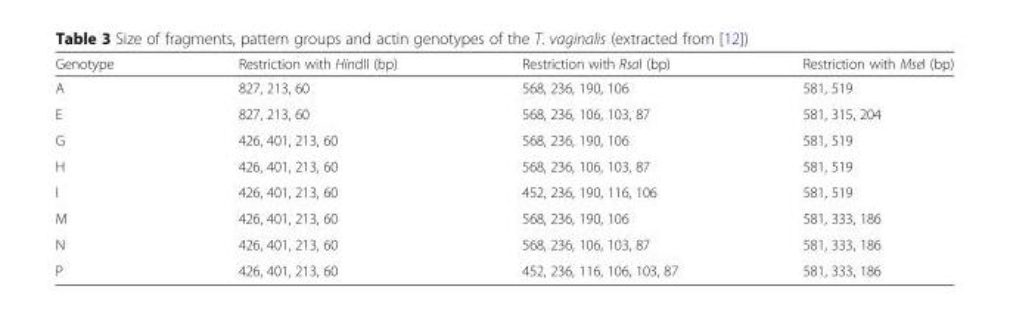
<table><thead><tr><td>Genotype</td><td>Restriction with HindII (bp)</td><td>Restriction with RsaI (bp)</td><td>Restriction with MseI (bp)</td></tr></thead><tbody><tr><td>A</td><td>827, 213, 60</td><td>568, 236, 190, 106</td><td>581, 519</td></tr><tr><td>E</td><td>827, 213, 60</td><td>568, 236, 106, 103, 87</td><td>581, 315, 204</td></tr><tr><td>G</td><td>426, 401, 213, 60</td><td>568, 236, 190, 106</td><td>581, 519</td></tr><tr><td>H</td><td>426, 401, 213, 60</td><td>568, 236, 106, 103, 87</td><td>581, 519</td></tr><tr><td>I</td><td>426, 401, 213, 60</td><td>452, 236, 190, 116, 106</td><td>581, 519</td></tr><tr><td>M</td><td>426, 401, 213, 60</td><td>568, 236, 190, 106</td><td>581, 333, 186</td></tr><tr><td>N</td><td>426, 401, 213, 60</td><td>568, 236, 106, 103, 87</td><td>581, 333, 186</td></tr><tr><td>P</td><td>426, 401, 213, 60</td><td>452, 236, 116, 106, 103, 87</td><td>581, 333, 186</td></tr></tbody></table>